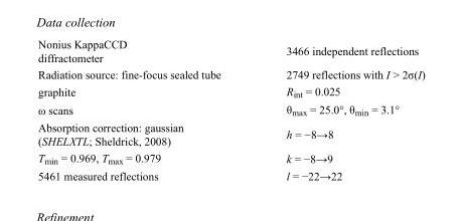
<table><tbody><tr><td>Nonius KappaCCD diffractometer</td><td>3466 independent reflections</td></tr><tr><td>Radiation source: fine-focus sealed tube</td><td>2749 reflections with I &gt; 2σ(I)</td></tr><tr><td>graphite</td><td>R<sub>int</sub> = 0.025</td></tr><tr><td>ω scans</td><td>θ<sub>max</sub> = 25.0°, θ<sub>min</sub> = 3.1°</td></tr><tr><td>Absorption correction: gaussian (SHELXTL; Sheldrick, 2008)</td><td>h = −8→8</td></tr><tr><td>T<sub>min</sub> = 0.969, T<sub>max</sub> = 0.979</td><td>k = −8→9</td></tr><tr><td>5461 measured reflections</td><td>l = −22→22</td></tr></tbody></table>